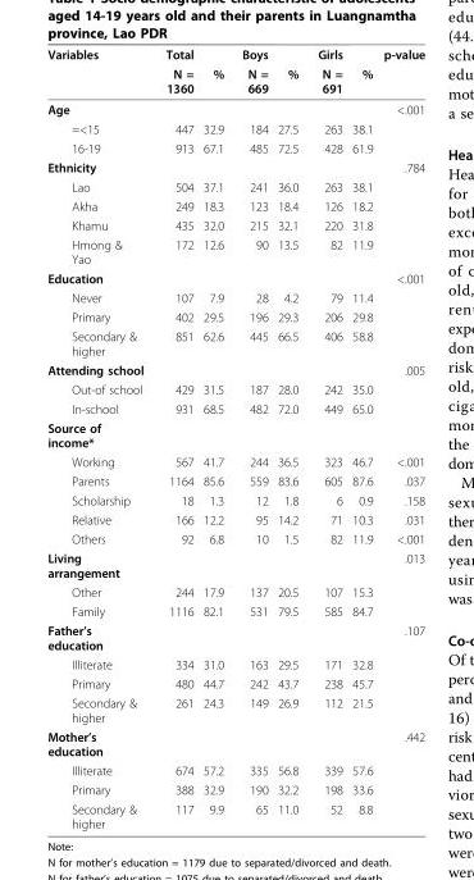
<table><thead><tr><td rowspan="2">Variables</td><td rowspan="2">Total N = 1360</td><td rowspan="2">%</td><td rowspan="2">Boys N = 669</td><td rowspan="2">%</td><td rowspan="2">Girls N = 691</td><td rowspan="2">%</td><td rowspan="2">p-value</td></tr><tr></tr></thead><tbody><tr><td>Age</td><td></td><td></td><td></td><td></td><td></td><td></td><td>&lt;.001</td></tr><tr><td>=&lt;15</td><td>447</td><td>32.9</td><td>184</td><td>27.5</td><td>263</td><td>38.1</td><td></td></tr><tr><td>16-19</td><td>913</td><td>67.1</td><td>485</td><td>72.5</td><td>428</td><td>61.9</td><td></td></tr><tr><td>Ethnicity</td><td></td><td></td><td></td><td></td><td></td><td></td><td>.784</td></tr><tr><td>Lao</td><td>504</td><td>37.1</td><td>241</td><td>36.0</td><td>263</td><td>38.1</td><td></td></tr><tr><td>Akha</td><td>249</td><td>18.3</td><td>123</td><td>18.4</td><td>126</td><td>18.2</td><td></td></tr><tr><td>Khamu</td><td>435</td><td>32.0</td><td>215</td><td>32.1</td><td>220</td><td>31.8</td><td></td></tr><tr><td>Hmong &amp; Yao</td><td>172</td><td>12.6</td><td>90</td><td>13.5</td><td>82</td><td>11.9</td><td></td></tr><tr><td>Education</td><td></td><td></td><td></td><td></td><td></td><td></td><td>&lt;.001</td></tr><tr><td>Never</td><td>107</td><td>7.9</td><td>28</td><td>4.2</td><td>79</td><td>11.4</td><td></td></tr><tr><td>Primary</td><td>402</td><td>29.5</td><td>196</td><td>29.3</td><td>206</td><td>29.8</td><td></td></tr><tr><td>Secondary &amp; higher</td><td>851</td><td>62.6</td><td>445</td><td>66.5</td><td>406</td><td>58.8</td><td></td></tr><tr><td>Attending school</td><td></td><td></td><td></td><td></td><td></td><td></td><td>.005</td></tr><tr><td>Out-of school</td><td>429</td><td>31.5</td><td>187</td><td>28.0</td><td>242</td><td>35.0</td><td></td></tr><tr><td>In-school</td><td>931</td><td>68.5</td><td>482</td><td>72.0</td><td>449</td><td>65.0</td><td></td></tr><tr><td colspan="8">Source of income*</td></tr><tr><td>Working</td><td>567</td><td>41.7</td><td>244</td><td>36.5</td><td>323</td><td>46.7</td><td>&lt;.001</td></tr><tr><td>Parents</td><td>1164</td><td>85.6</td><td>559</td><td>83.6</td><td>605</td><td>87.6</td><td>.037</td></tr><tr><td>Scholarship</td><td>18</td><td>1.3</td><td>12</td><td>1.8</td><td>6</td><td>0.9</td><td>.158</td></tr><tr><td>Relative</td><td>166</td><td>12.2</td><td>95</td><td>14.2</td><td>71</td><td>10.3</td><td>.031</td></tr><tr><td>Others</td><td>92</td><td>6.8</td><td>10</td><td>1.5</td><td>82</td><td>11.9</td><td>&lt;.001</td></tr><tr><td>Living arrangement</td><td></td><td></td><td></td><td></td><td></td><td></td><td>.013</td></tr><tr><td>Other</td><td>244</td><td>17.9</td><td>137</td><td>20.5</td><td>107</td><td>15.3</td><td></td></tr><tr><td>Family</td><td>1116</td><td>82.1</td><td>531</td><td>79.5</td><td>585</td><td>84.7</td><td></td></tr><tr><td>Father’s education</td><td></td><td></td><td></td><td></td><td></td><td></td><td>.107</td></tr><tr><td>Illiterate</td><td>334</td><td>31.0</td><td>163</td><td>29.5</td><td>171</td><td>32.8</td><td></td></tr><tr><td>Primary</td><td>480</td><td>44.7</td><td>242</td><td>43.7</td><td>238</td><td>45.7</td><td></td></tr><tr><td>Secondary &amp; higher</td><td>261</td><td>24.3</td><td>149</td><td>26.9</td><td>112</td><td>21.5</td><td></td></tr><tr><td>Mother’s education</td><td></td><td></td><td></td><td></td><td></td><td></td><td>.442</td></tr><tr><td>Illiterate</td><td>674</td><td>57.2</td><td>335</td><td>56.8</td><td>339</td><td>57.6</td><td></td></tr><tr><td>Primary</td><td>388</td><td>32.9</td><td>190</td><td>32.2</td><td>198</td><td>33.6</td><td></td></tr><tr><td>Secondary &amp; higher</td><td>117</td><td>9.9</td><td>65</td><td>11.0</td><td>52</td><td>8.8</td><td></td></tr></tbody></table>